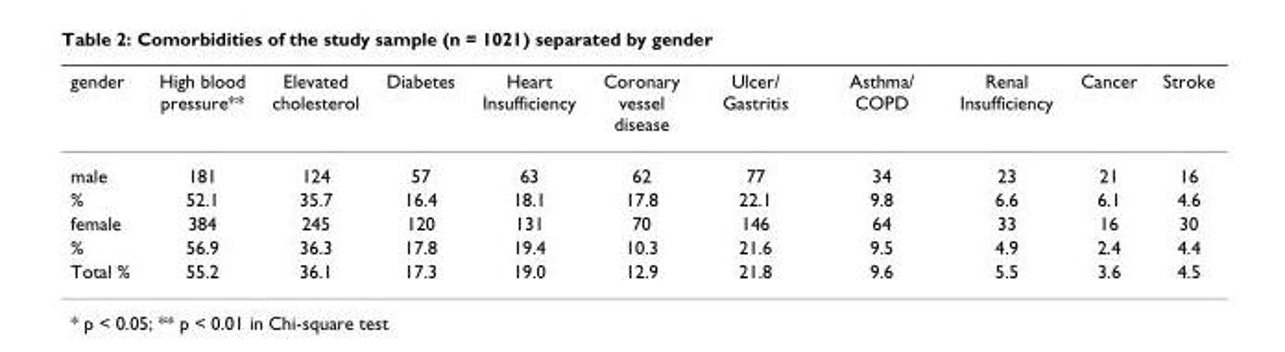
<table><thead><tr><td>gender</td><td>High blood pressure**</td><td>Elevated cholesterol</td><td>Diabetes</td><td>Heart Insufficiency</td><td>Coronary vessel disease</td><td>Ulcer/ Gastritis</td><td>Asthma/ COPD</td><td>Renal Insufficiency</td><td>Cancer</td><td>Stroke</td></tr></thead><tbody><tr><td>male</td><td>181</td><td>124</td><td>57</td><td>63</td><td>62</td><td>77</td><td>34</td><td>23</td><td>21</td><td>16</td></tr><tr><td>%</td><td>52.1</td><td>35.7</td><td>16.4</td><td>18.1</td><td>17.8</td><td>22.1</td><td>9.8</td><td>6.6</td><td>6.1</td><td>4.6</td></tr><tr><td>female</td><td>384</td><td>245</td><td>120</td><td>131</td><td>70</td><td>146</td><td>64</td><td>33</td><td>16</td><td>30</td></tr><tr><td>%</td><td>56.9</td><td>36.3</td><td>17.8</td><td>19.4</td><td>10.3</td><td>21.6</td><td>9.5</td><td>4.9</td><td>2.4</td><td>4.4</td></tr><tr><td>Total %</td><td>55.2</td><td>36.1</td><td>17.3</td><td>19.0</td><td>12.9</td><td>21.8</td><td>9.6</td><td>5.5</td><td>3.6</td><td>4.5</td></tr></tbody></table>